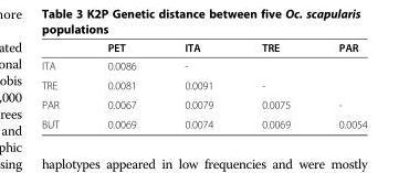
<table><thead><tr><td></td><td>PET</td><td>ITA</td><td>TRE</td><td>PAR</td></tr></thead><tbody><tr><td>ITA</td><td>0.0086</td><td>-</td><td></td><td></td></tr><tr><td>TRE</td><td>0.0081</td><td>0.0091</td><td>-</td><td></td></tr><tr><td>PAR</td><td>0.0067</td><td>0.0079</td><td>0.0075</td><td>-</td></tr><tr><td>BUT</td><td>0.0069</td><td>0.0074</td><td>0.0069</td><td>0.0054</td></tr></tbody></table>